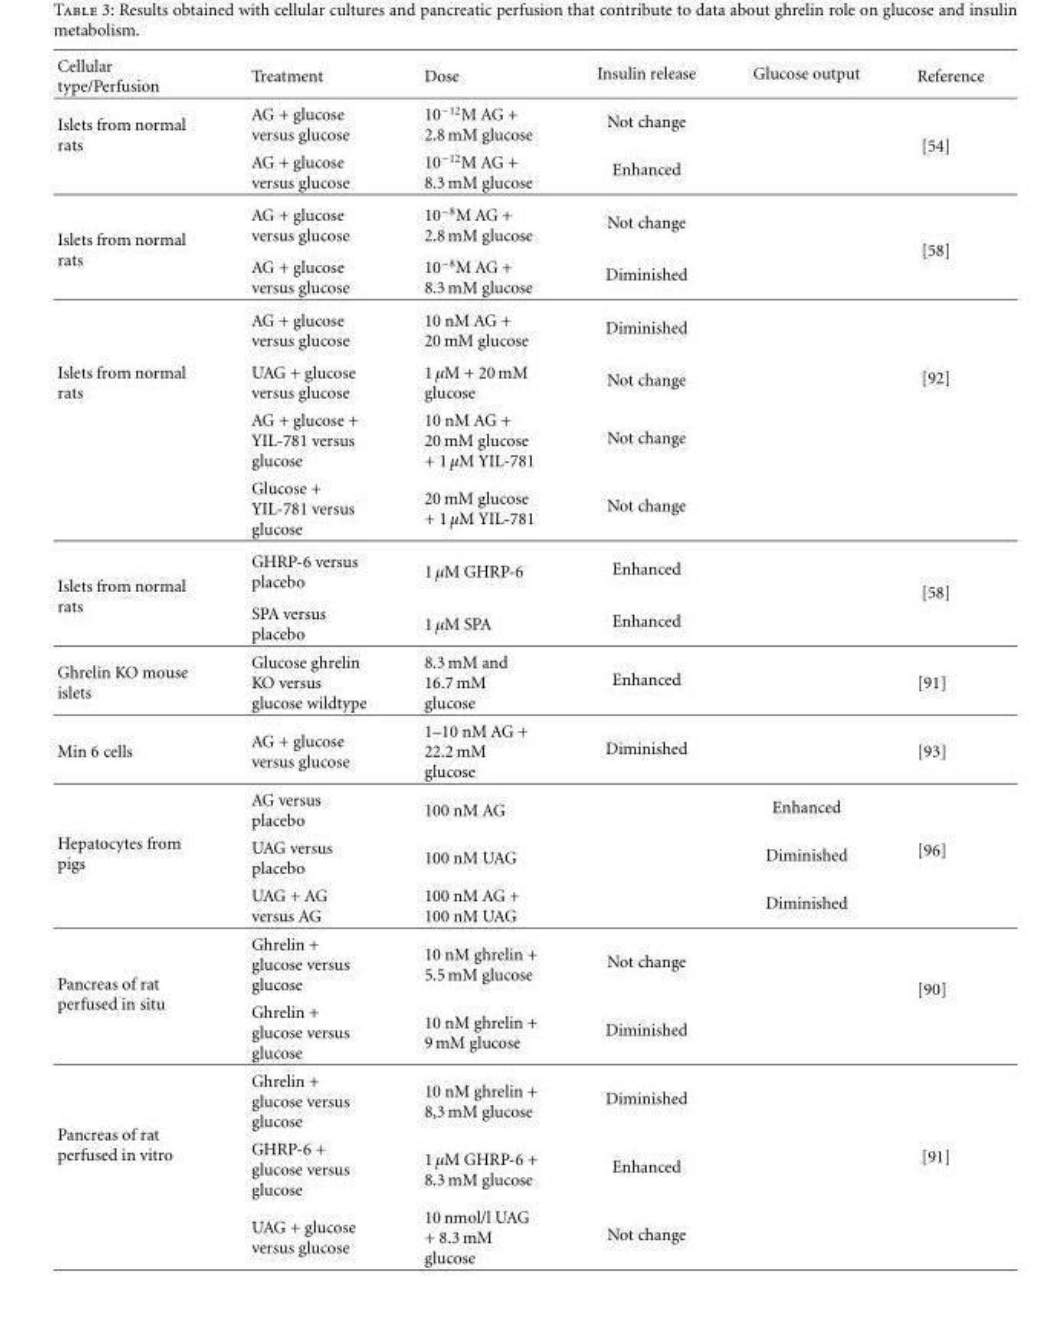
<table><thead><tr><td>Cellular type/Perfusion</td><td>Treatment</td><td>Dose</td><td>Insulin release</td><td>Glucose output</td><td>Reference</td></tr></thead><tbody><tr><td rowspan="2">Islets from normal rats</td><td>AG + glucose versus glucose</td><td>10<sup>−12</sup>M AG + 2.8 mM glucose</td><td>Not change</td><td></td><td rowspan="2">[54]</td></tr><tr><td>AG + glucose versus glucose</td><td>10<sup>−12</sup>M AG + 8.3 mM glucose</td><td>Enhanced</td><td></td></tr><tr><td rowspan="2">Islets from normal rats</td><td>AG + glucose versus glucose</td><td>10<sup>−8</sup>M AG + 2.8 mM glucose</td><td>Not change</td><td></td><td rowspan="2">[58]</td></tr><tr><td>AG + glucose versus glucose</td><td>10<sup>−8</sup>M AG + 8.3 mM glucose</td><td>Diminished</td><td></td></tr><tr><td rowspan="4">Islets from normal rats</td><td>AG + glucose versus glucose</td><td>10 nM AG + 20 mM glucose</td><td>Diminished</td><td></td><td rowspan="4">[92]</td></tr><tr><td>UAG + glucose versus glucose</td><td>1 μM + 20 mM glucose</td><td>Not change</td><td></td></tr><tr><td>AG + glucose + YIL-781 versus glucose</td><td>10 nM AG + 20 mM glucose + 1 μM YIL-781</td><td>Not change</td><td></td></tr><tr><td>Glucose + YIL-781 versus glucose</td><td>20 mM glucose + 1 μM YIL-781</td><td>Not change</td><td></td></tr><tr><td rowspan="2">Islets from normal rats</td><td>GHRP-6 versus placebo</td><td>1 μM GHRP-6</td><td>Enhanced</td><td></td><td rowspan="2">[58]</td></tr><tr><td>SPA versus placebo</td><td>1 μM SPA</td><td>Enhanced</td><td></td></tr><tr><td>Ghrelin KO mouse islets</td><td>Glucose ghrelin KO versus glucose wildtype</td><td>8.3 mM and 16.7 mM glucose</td><td>Enhanced</td><td></td><td>[91]</td></tr><tr><td>Min 6 cells</td><td>AG + glucose versus glucose</td><td>1–10 nM AG + 22.2 mM glucose</td><td>Diminished</td><td></td><td>[93]</td></tr><tr><td rowspan="3">Hepatocytes from pigs</td><td>AG versus placebo</td><td>100 nM AG</td><td></td><td>Enhanced</td><td rowspan="3">[96]</td></tr><tr><td>UAG versus placebo</td><td>100 nM UAG</td><td></td><td>Diminished</td></tr><tr><td>UAG + AG versus AG</td><td>100 nM AG + 100 nM UAG</td><td></td><td>Diminished</td></tr><tr><td rowspan="2">Pancreas of rat perfused in situ</td><td>Ghrelin + glucose versus glucose</td><td>10 nM ghrelin + 5.5 mM glucose</td><td>Not change</td><td></td><td rowspan="2">[90]</td></tr><tr><td>Ghrelin + glucose versus glucose</td><td>10 nM ghrelin + 9 mM glucose</td><td>Diminished</td><td></td></tr><tr><td rowspan="3">Pancreas of rat perfused in vitro</td><td>Ghrelin + glucose versus glucose</td><td>10 nM ghrelin + 8,3 mM glucose</td><td>Diminished</td><td></td><td rowspan="3">[91]</td></tr><tr><td>GHRP-6 + glucose versus glucose</td><td>1 μM GHRP-6 + 8.3 mM glucose</td><td>Enhanced</td><td></td></tr><tr><td>UAG + glucose versus glucose</td><td>10 nmol/l UAG + 8.3 mM glucose</td><td>Not change</td><td></td></tr></tbody></table>